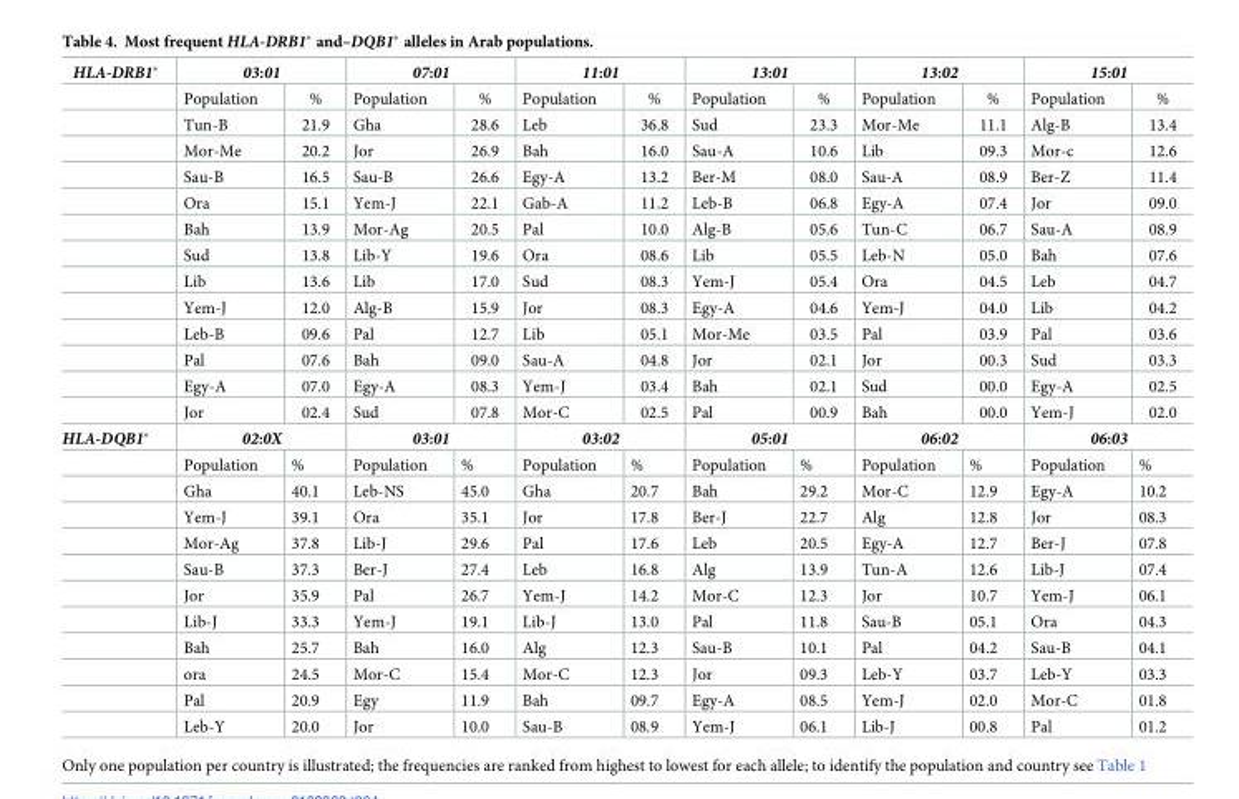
<table><tbody><tr><td rowspan="14">HLA-DRB1*</td><td colspan="2">03:01</td><td colspan="2">07:01</td><td colspan="2">11:01</td><td colspan="2">13:01</td><td colspan="2">13:02</td><td colspan="2">15:01</td></tr><tr><td>Population</td><td>%</td><td>Population</td><td>%</td><td>Population</td><td>%</td><td>Population</td><td>%</td><td>Population</td><td>%</td><td>Population</td><td>%</td></tr><tr><td>Tun-B</td><td>21.9</td><td>Gha</td><td>28.6</td><td>Leb</td><td>36.8</td><td>Sud</td><td>23.3</td><td>Mor-Me</td><td>11.1</td><td>Alg-B</td><td>13.4</td></tr><tr><td>Mor-Me</td><td>20.2</td><td>Jor</td><td>26.9</td><td>Bah</td><td>16.0</td><td>Sau-A</td><td>10.6</td><td>Lib</td><td>09.3</td><td>Mor-c</td><td>12.6</td></tr><tr><td>Sau-B</td><td>16.5</td><td>Sau-B</td><td>26.6</td><td>Egy-A</td><td>13.2</td><td>Ber-M</td><td>08.0</td><td>Sau-A</td><td>08.9</td><td>Ber-Z</td><td>11.4</td></tr><tr><td>Ora</td><td>15.1</td><td>Yem-J</td><td>22.1</td><td>Gab-A</td><td>11.2</td><td>Leb-B</td><td>06.8</td><td>Egy-A</td><td>07.4</td><td>Jor</td><td>09.0</td></tr><tr><td>Bah</td><td>13.9</td><td>Mor-Ag</td><td>20.5</td><td>Pal</td><td>10.0</td><td>Alg-B</td><td>05.6</td><td>Tun-C</td><td>06.7</td><td>Sau-A</td><td>08.9</td></tr><tr><td>Sud</td><td>13.8</td><td>Lib-Y</td><td>19.6</td><td>Ora</td><td>08.6</td><td>Lib</td><td>05.5</td><td>Leb-N</td><td>05.0</td><td>Bah</td><td>07.6</td></tr><tr><td>Lib</td><td>13.6</td><td>Lib</td><td>17.0</td><td>Sud</td><td>08.3</td><td>Yem-J</td><td>05.4</td><td>Ora</td><td>04.5</td><td>Leb</td><td>04.7</td></tr><tr><td>Yem-J</td><td>12.0</td><td>Alg-B</td><td>15.9</td><td>Jor</td><td>08.3</td><td>Egy-A</td><td>04.6</td><td>Yem-J</td><td>04.0</td><td>Lib</td><td>04.2</td></tr><tr><td>Leb-B</td><td>09.6</td><td>Pal</td><td>12.7</td><td>Lib</td><td>05.1</td><td>Mor-Me</td><td>03.5</td><td>Pal</td><td>03.9</td><td>Pal</td><td>03.6</td></tr><tr><td>Pal</td><td>07.6</td><td>Bah</td><td>09.0</td><td>Sau-A</td><td>04.8</td><td>Jor</td><td>02.1</td><td>Jor</td><td>00.3</td><td>Sud</td><td>03.3</td></tr><tr><td>Egy-A</td><td>07.0</td><td>Egy-A</td><td>08.3</td><td>Yem-J</td><td>03.4</td><td>Bah</td><td>02.1</td><td>Sud</td><td>00.0</td><td>Egy-A</td><td>02.5</td></tr><tr><td>Jor</td><td>02.4</td><td>Sud</td><td>07.8</td><td>Mor-C</td><td>02.5</td><td>Pal</td><td>00.9</td><td>Bah</td><td>00.0</td><td>Yem-J</td><td>02.0</td></tr><tr><td rowspan="12">HLA-DQB1*</td><td colspan="2">02:0X</td><td colspan="2">03:01</td><td colspan="2">03:02</td><td colspan="2">05:01</td><td colspan="2">06:02</td><td colspan="2">06:03</td></tr><tr><td>Population</td><td>%</td><td>Population</td><td>%</td><td>Population</td><td>%</td><td>Population</td><td>%</td><td>Population</td><td>%</td><td>Population</td><td>%</td></tr><tr><td>Gha</td><td>40.1</td><td>Leb-NS</td><td>45.0</td><td>Gha</td><td>20.7</td><td>Bah</td><td>29.2</td><td>Mor-C</td><td>12.9</td><td>Egy-A</td><td>10.2</td></tr><tr><td>Yem-J</td><td>39.1</td><td>Ora</td><td>35.1</td><td>Jor</td><td>17.8</td><td>Ber-J</td><td>22.7</td><td>Alg</td><td>12.8</td><td>Jor</td><td>08.3</td></tr><tr><td>Mor-Ag</td><td>37.8</td><td>Lib-J</td><td>29.6</td><td>Pal</td><td>17.6</td><td>Leb</td><td>20.5</td><td>Egy-A</td><td>12.7</td><td>Ber-J</td><td>07.8</td></tr><tr><td>Sau-B</td><td>37.3</td><td>Ber-J</td><td>27.4</td><td>Leb</td><td>16.8</td><td>Alg</td><td>13.9</td><td>Tun-A</td><td>12.6</td><td>Lib-J</td><td>07.4</td></tr><tr><td>Jor</td><td>35.9</td><td>Pal</td><td>26.7</td><td>Yem-J</td><td>14.2</td><td>Mor-C</td><td>12.3</td><td>Jor</td><td>10.7</td><td>Yem-J</td><td>06.1</td></tr><tr><td>Lib-J</td><td>33.3</td><td>Yem-J</td><td>19.1</td><td>Lib-J</td><td>13.0</td><td>Pal</td><td>11.8</td><td>Sau-B</td><td>05.1</td><td>Ora</td><td>04.3</td></tr><tr><td>Bah</td><td>25.7</td><td>Bah</td><td>16.0</td><td>Alg</td><td>12.3</td><td>Sau-B</td><td>10.1</td><td>Pal</td><td>04.2</td><td>Sau-B</td><td>04.1</td></tr><tr><td>ora</td><td>24.5</td><td>Mor-C</td><td>15.4</td><td>Mor-C</td><td>12.3</td><td>Jor</td><td>09.3</td><td>Leb-Y</td><td>03.7</td><td>Leb-Y</td><td>03.3</td></tr><tr><td>Pal</td><td>20.9</td><td>Egy</td><td>11.9</td><td>Bah</td><td>09.7</td><td>Egy-A</td><td>08.5</td><td>Yem-J</td><td>02.0</td><td>Mor-C</td><td>01.8</td></tr><tr><td>Leb-Y</td><td>20.0</td><td>Jor</td><td>10.0</td><td>Sau-B</td><td>08.9</td><td>Yem-J</td><td>06.1</td><td>Lib-J</td><td>00.8</td><td>Pal</td><td>01.2</td></tr></tbody></table>